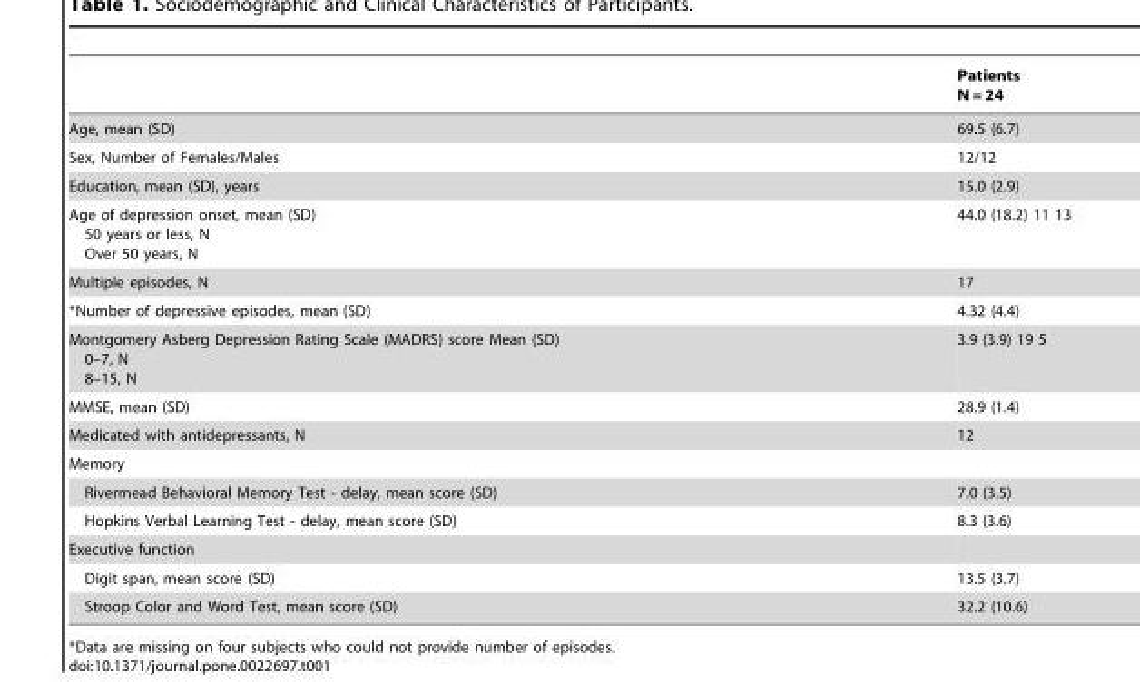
<table><thead><tr><td></td><td>Patients N = 24</td></tr></thead><tbody><tr><td>Age, mean (SD)</td><td>69.5 (6.7)</td></tr><tr><td>Sex, Number of Females/Males</td><td>12/12</td></tr><tr><td>Education, mean (SD), years</td><td>15.0 (2.9)</td></tr><tr><td>Age of depression onset, mean (SD) 50 years or less, N Over 50 years, N</td><td>44.0 (18.2) 11 13</td></tr><tr><td>Multiple episodes, N</td><td>17</td></tr><tr><td>*Number of depressive episodes, mean (SD)</td><td>4.32 (4.4)</td></tr><tr><td>Montgomery Asberg Depression Rating Scale (MADRS) score Mean (SD) 0–7, N 8–15, N</td><td>3.9 (3.9) 19 5</td></tr><tr><td>MMSE, mean (SD)</td><td>28.9 (1.4)</td></tr><tr><td>Medicated with antidepressants, N</td><td>12</td></tr><tr><td colspan="2">Memory</td></tr><tr><td>Rivermead Behavioral Memory Test - delay, mean score (SD)</td><td>7.0 (3.5)</td></tr><tr><td>Hopkins Verbal Learning Test - delay, mean score (SD)</td><td>8.3 (3.6)</td></tr><tr><td colspan="2">Executive function</td></tr><tr><td>Digit span, mean score (SD)</td><td>13.5 (3.7)</td></tr><tr><td>Stroop Color and Word Test, mean score (SD)</td><td>32.2 (10.6)</td></tr></tbody></table>